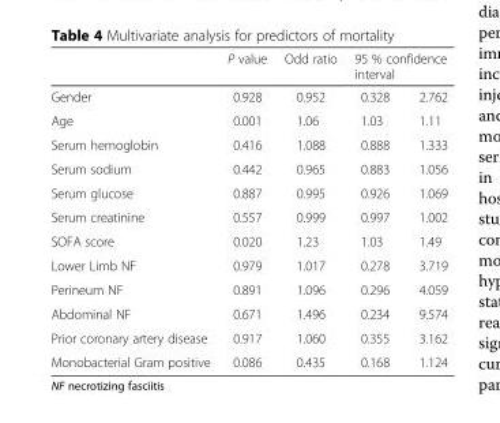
<table><thead><tr><td rowspan="2">Gender</td><td rowspan="2">P value 0.928</td><td rowspan="2">Odd ratio 0.952</td><td colspan="2">95 % confidence interval</td></tr><tr><td>0.328</td><td>2.762</td></tr></thead><tbody><tr><td>Age</td><td>0.001</td><td>1.06</td><td>1.03</td><td>1.11</td></tr><tr><td>Serum hemoglobin</td><td>0.416</td><td>1.088</td><td>0.888</td><td>1.333</td></tr><tr><td>Serum sodium</td><td>0.442</td><td>0.965</td><td>0.883</td><td>1.056</td></tr><tr><td>Serum glucose</td><td>0.887</td><td>0.995</td><td>0.926</td><td>1.069</td></tr><tr><td>Serum creatinine</td><td>0.557</td><td>0.999</td><td>0.997</td><td>1.002</td></tr><tr><td>SOFA score</td><td>0.020</td><td>1.23</td><td>1.03</td><td>1.49</td></tr><tr><td>Lower Limb NF</td><td>0.979</td><td>1.017</td><td>0.278</td><td>3.719</td></tr><tr><td>Perineum NF</td><td>0.891</td><td>1.096</td><td>0.296</td><td>4.059</td></tr><tr><td>Abdominal NF</td><td>0.671</td><td>1.496</td><td>0.234</td><td>9.574</td></tr><tr><td>Prior coronary artery disease</td><td>0.917</td><td>1.060</td><td>0.355</td><td>3.162</td></tr><tr><td>Monobacterial Gram positive</td><td>0.086</td><td>0.435</td><td>0.168</td><td>1.124</td></tr></tbody></table>